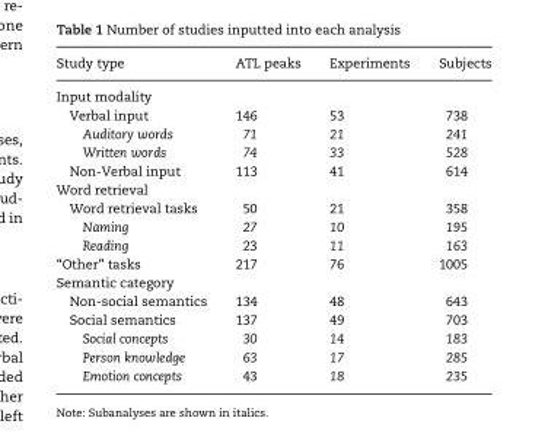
<table><thead><tr><td>Study type</td><td>ATL peaks</td><td>Experiments</td><td>Subjects</td></tr></thead><tbody><tr><td colspan="4">Input modality</td></tr><tr><td>Verbal input</td><td>146</td><td>53</td><td>738</td></tr><tr><td>Auditory words</td><td>71</td><td>21</td><td>241</td></tr><tr><td>Written words</td><td>74</td><td>33</td><td>528</td></tr><tr><td>Non-Verbal input</td><td>113</td><td>41</td><td>614</td></tr><tr><td colspan="4">Word retrieval</td></tr><tr><td>Word retrieval tasks</td><td>50</td><td>21</td><td>358</td></tr><tr><td>Naming</td><td>27</td><td>10</td><td>195</td></tr><tr><td>Reading</td><td>23</td><td>11</td><td>163</td></tr><tr><td>“Other” tasks</td><td>217</td><td>76</td><td>1005</td></tr><tr><td colspan="4">Semantic category</td></tr><tr><td>Non-social semantics</td><td>134</td><td>48</td><td>643</td></tr><tr><td>Social semantics</td><td>137</td><td>49</td><td>703</td></tr><tr><td>Social concepts</td><td>30</td><td>14</td><td>183</td></tr><tr><td>Person knowledge</td><td>63</td><td>17</td><td>285</td></tr><tr><td>Emotion concepts</td><td>43</td><td>18</td><td>235</td></tr></tbody></table>